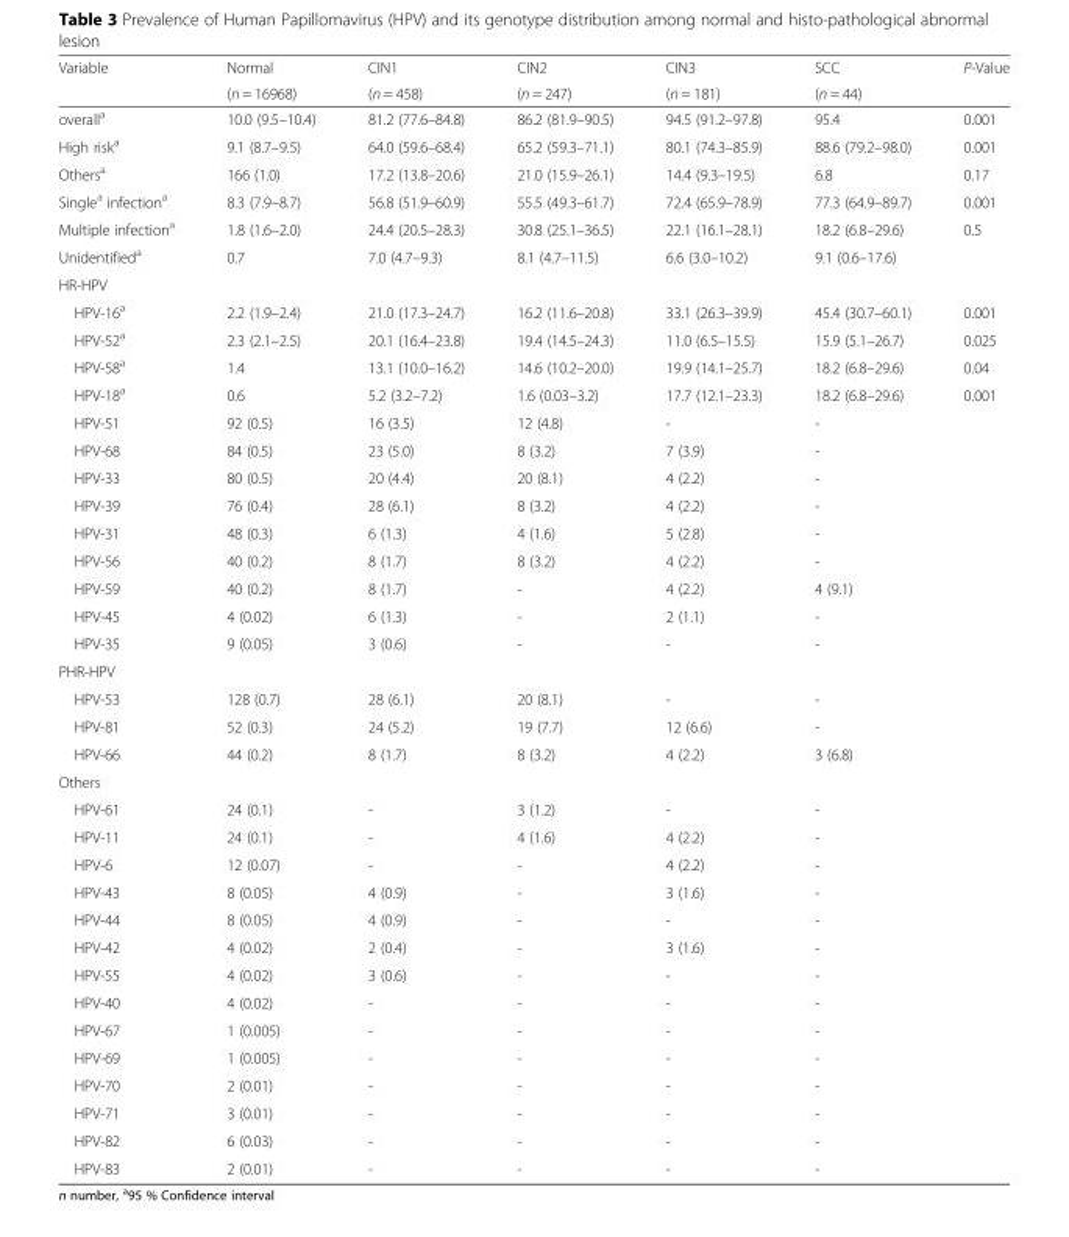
<table><thead><tr><td rowspan="2">Variable</td><td rowspan="2">Normal (n = 16968)</td><td rowspan="2">CIN1 (n = 458)</td><td rowspan="2">CIN2 (n = 247)</td><td rowspan="2">CIN3 (n = 181)</td><td rowspan="2">SCC (n = 44)</td><td rowspan="2">P-Value</td></tr><tr></tr></thead><tbody><tr><td>overall<sup>a</sup></td><td>10.0 (9.5–10.4)</td><td>81.2 (77.6–84.8)</td><td>86.2 (81.9–90.5)</td><td>94.5 (91.2–97.8)</td><td>95.4</td><td>0.001</td></tr><tr><td>High risk<sup>a</sup></td><td>9.1 (8.7–9.5)</td><td>64.0 (59.6–68.4)</td><td>65.2 (59.3–71.1)</td><td>80.1 (74.3–85.9)</td><td>88.6 (79.2–98.0)</td><td>0.001</td></tr><tr><td>Others<sup>a</sup></td><td>166 (1.0)</td><td>17.2 (13.8–20.6)</td><td>21.0 (15.9–26.1)</td><td>14.4 (9.3–19.5)</td><td>6.8</td><td>0.17</td></tr><tr><td>Single<sup>a</sup> infection<sup>a</sup></td><td>8.3 (7.9–8.7)</td><td>56.8 (51.9–60.9)</td><td>55.5 (49.3–61.7)</td><td>72.4 (65.9–78.9)</td><td>77.3 (64.9–89.7)</td><td>0.001</td></tr><tr><td>Multiple infection<sup>a</sup></td><td>1.8 (1.6–2.0)</td><td>24.4 (20.5–28.3)</td><td>30.8 (25.1–36.5)</td><td>22.1 (16.1–28.1)</td><td>18.2 (6.8–29.6)</td><td>0.5</td></tr><tr><td>Unidentified<sup>a</sup></td><td>0.7</td><td>7.0 (4.7–9.3)</td><td>8.1 (4.7–11.5)</td><td>6.6 (3.0–10.2)</td><td>9.1 (0.6–17.6)</td><td></td></tr><tr><td colspan="7">HR-HPV</td></tr><tr><td>HPV-16<sup>a</sup></td><td>2.2 (1.9–2.4)</td><td>21.0 (17.3–24.7)</td><td>16.2 (11.6–20.8)</td><td>33.1 (26.3–39.9)</td><td>45.4 (30.7–60.1)</td><td>0.001</td></tr><tr><td>HPV-52<sup>a</sup></td><td>2.3 (2.1–2.5)</td><td>20.1 (16.4–23.8)</td><td>19.4 (14.5–24.3)</td><td>11.0 (6.5–15.5)</td><td>15.9 (5.1–26.7)</td><td>0.025</td></tr><tr><td>HPV-58<sup>a</sup></td><td>1.4</td><td>13.1 (10.0–16.2)</td><td>14.6 (10.2–20.0)</td><td>19.9 (14.1–25.7)</td><td>18.2 (6.8–29.6)</td><td>0.04</td></tr><tr><td>HPV-18<sup>a</sup></td><td>0.6</td><td>5.2 (3.2–7.2)</td><td>1.6 (0.03–3.2)</td><td>17.7 (12.1–23.3)</td><td>18.2 (6.8–29.6)</td><td>0.001</td></tr><tr><td>HPV-51</td><td>92 (0.5)</td><td>16 (3.5)</td><td>12 (4.8)</td><td>-</td><td>-</td><td></td></tr><tr><td>HPV-68</td><td>84 (0.5)</td><td>23 (5.0)</td><td>8 (3.2)</td><td>7 (3.9)</td><td>-</td><td></td></tr><tr><td>HPV-33</td><td>80 (0.5)</td><td>20 (4.4)</td><td>20 (8.1)</td><td>4 (2.2)</td><td>-</td><td></td></tr><tr><td>HPV-39</td><td>76 (0.4)</td><td>28 (6.1)</td><td>8 (3.2)</td><td>4 (2.2)</td><td>-</td><td></td></tr><tr><td>HPV-31</td><td>48 (0.3)</td><td>6 (1.3)</td><td>4 (1.6)</td><td>5 (2.8)</td><td>-</td><td></td></tr><tr><td>HPV-56</td><td>40 (0.2)</td><td>8 (1.7)</td><td>8 (3.2)</td><td>4 (2.2)</td><td>-</td><td></td></tr><tr><td>HPV-59</td><td>40 (0.2)</td><td>8 (1.7)</td><td>-</td><td>4 (2.2)</td><td>4 (9.1)</td><td></td></tr><tr><td>HPV-45</td><td>4 (0.02)</td><td>6 (1.3)</td><td>-</td><td>2 (1.1)</td><td>-</td><td></td></tr><tr><td>HPV-35</td><td>9 (0.05)</td><td>3 (0.6)</td><td>-</td><td>-</td><td>-</td><td></td></tr><tr><td colspan="7">PHR-HPV</td></tr><tr><td>HPV-53</td><td>128 (0.7)</td><td>28 (6.1)</td><td>20 (8.1)</td><td>-</td><td>-</td><td></td></tr><tr><td>HPV-81</td><td>52 (0.3)</td><td>24 (5.2)</td><td>19 (7.7)</td><td>12 (6.6)</td><td>-</td><td></td></tr><tr><td>HPV-66</td><td>44 (0.2)</td><td>8 (1.7)</td><td>8 (3.2)</td><td>4 (2.2)</td><td>3 (6.8)</td><td></td></tr><tr><td colspan="7">Others</td></tr><tr><td>HPV-61</td><td>24 (0.1)</td><td>-</td><td>3 (1.2)</td><td>-</td><td>-</td><td></td></tr><tr><td>HPV-11</td><td>24 (0.1)</td><td>-</td><td>4 (1.6)</td><td>4 (2.2)</td><td>-</td><td></td></tr><tr><td>HPV-6</td><td>12 (0.07)</td><td>-</td><td>-</td><td>4 (2.2)</td><td>-</td><td></td></tr><tr><td>HPV-43</td><td>8 (0.05)</td><td>4 (0.9)</td><td>-</td><td>3 (1.6)</td><td>-</td><td></td></tr><tr><td>HPV-44</td><td>8 (0.05)</td><td>4 (0.9)</td><td>-</td><td>-</td><td>-</td><td></td></tr><tr><td>HPV-42</td><td>4 (0.02)</td><td>2 (0.4)</td><td>-</td><td>3 (1.6)</td><td>-</td><td></td></tr><tr><td>HPV-55</td><td>4 (0.02)</td><td>3 (0.6)</td><td>-</td><td>-</td><td>-</td><td></td></tr><tr><td>HPV-40</td><td>4 (0.02)</td><td>-</td><td>-</td><td>-</td><td>-</td><td></td></tr><tr><td>HPV-67</td><td>1 (0.005)</td><td>-</td><td>-</td><td>-</td><td>-</td><td></td></tr><tr><td>HPV-69</td><td>1 (0.005)</td><td>-</td><td>-</td><td>-</td><td>-</td><td></td></tr><tr><td>HPV-70</td><td>2 (0.01)</td><td>-</td><td>-</td><td>-</td><td>-</td><td></td></tr><tr><td>HPV-71</td><td>3 (0.01)</td><td>-</td><td>-</td><td>-</td><td>-</td><td></td></tr><tr><td>HPV-82</td><td>6 (0.03)</td><td>-</td><td>-</td><td>-</td><td>-</td><td></td></tr><tr><td>HPV-83</td><td>2 (0.01)</td><td>-</td><td>-</td><td>-</td><td>-</td><td></td></tr></tbody></table>